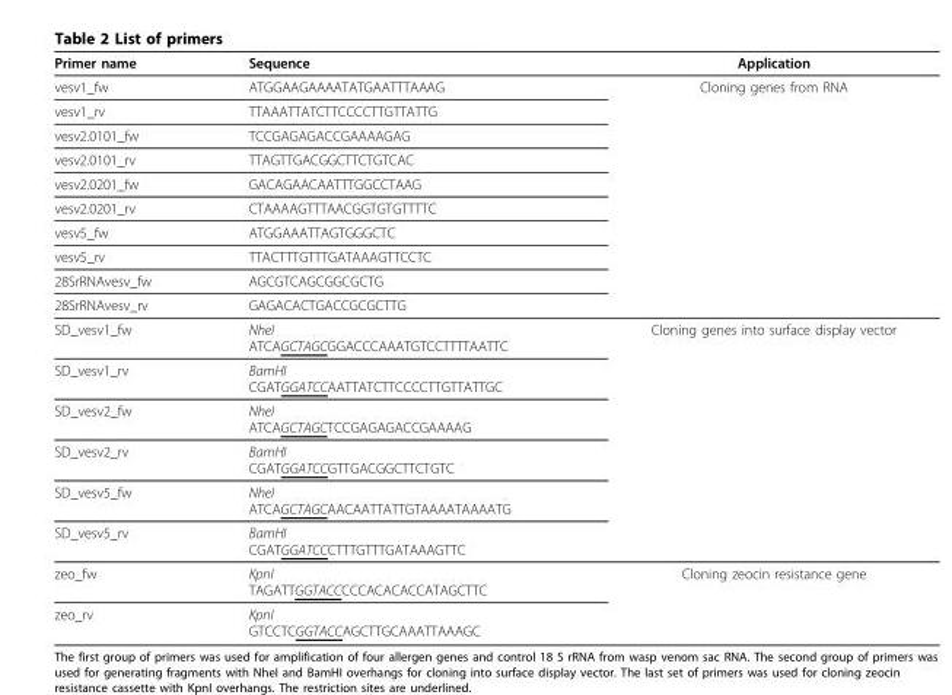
<table><thead><tr><td>Primer name</td><td>Sequence</td><td>Application</td></tr></thead><tbody><tr><td>vesv1_fw</td><td>ATGGAAGAAAATATGAATTTAAAG</td><td>Cloning genes from RNA</td></tr><tr><td>vesv1_rv</td><td>TTAAATTATCTTCCCCTTGTTATTG</td><td></td></tr><tr><td>vesv2.0101_fw</td><td>TCCGAGAGACCGAAAAGAG</td><td></td></tr><tr><td>vesv2.0101_rv</td><td>TTAGTTGACGGCTTCTGTCAC</td><td></td></tr><tr><td>vesv2.0201_fw</td><td>GACAGAACAATTTGGCCTAAG</td><td></td></tr><tr><td>vesv2.0201_rv</td><td>CTAAAAGTTTAACGGTGTGTTTTC</td><td></td></tr><tr><td>vesv5_fw</td><td>ATGGAAATTAGTGGGCTC</td><td></td></tr><tr><td>vesv5_rv</td><td>TTACTTTGTTTGATAAAGTTCCTC</td><td></td></tr><tr><td>28SrRNAvesv_fw</td><td>AGCGTCAGCGGCGCTG</td><td></td></tr><tr><td>28SrRNAvesv_rv</td><td>GAGACACTGACCGCGCTTG</td><td></td></tr><tr><td>SD_vesv1_fw</td><td>NheI ATCAGCTAGCGGACCCAAATGTCCTTTTAATTC</td><td>Cloning genes into surface display vector</td></tr><tr><td>SD_vesv1_rv</td><td>BamHI CGATGGATCCAATTATCTTCCCCTTGTTATTGC</td><td></td></tr><tr><td>SD_vesv2_fw</td><td>NheI ATCAGCTAGCTCCGAGAGACCGAAAAG</td><td></td></tr><tr><td>SD_vesv2_rv</td><td>BamHI CGATGGATCCGTTGACGGCTTCTGTC</td><td></td></tr><tr><td>SD_vesv5_fw</td><td>NheI ATCAGCTAGCAACAATTATTGTAAAATAAAATG</td><td></td></tr><tr><td>SD_vesv5_rv</td><td>BamHI CGATGGATCCCTTTGTTTGATAAAGTTC</td><td></td></tr><tr><td>zeo_fw</td><td>KpnI TAGATTGGTACCCCCACACACCATAGCTTC</td><td>Cloning zeocin resistance gene</td></tr><tr><td>zeo_rv</td><td>KpnI GTCCTCGGTACCAGCTTGCAAATTAAAGC</td><td></td></tr></tbody></table>